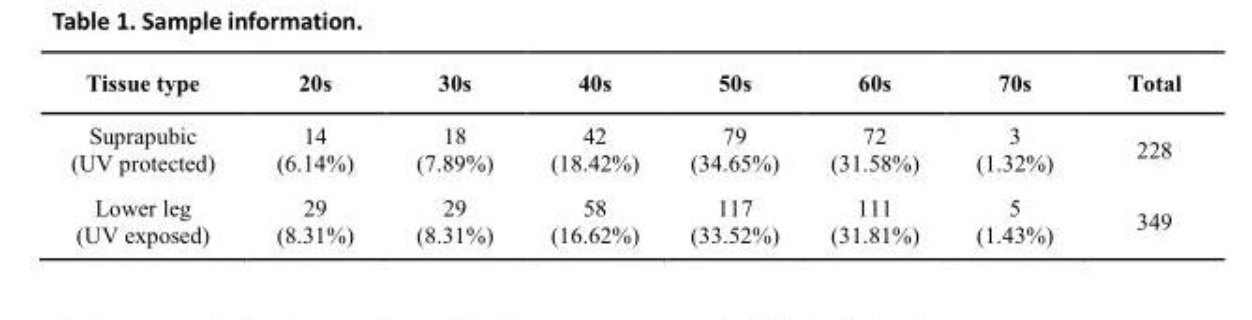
<table><tbody><tr><td>Tissue type</td><td>20s</td><td>30s</td><td>40s</td><td>50s</td><td>60s</td><td>70s</td><td>Total</td></tr><tr><td>Suprapubic (UV protected)</td><td>14 (6.14%)</td><td>18 (7.89%)</td><td>42 (18.42%)</td><td>79 (34.65%)</td><td>72 (31.58%)</td><td>3 (1.32%)</td><td>228</td></tr><tr><td>Lower leg (UV exposed)</td><td>29 (8.31%)</td><td>29 (8.31%)</td><td>58 (16.62%)</td><td>117 (33.52%)</td><td>111 (31.81%)</td><td>5 (1.43%)</td><td>349</td></tr></tbody></table>